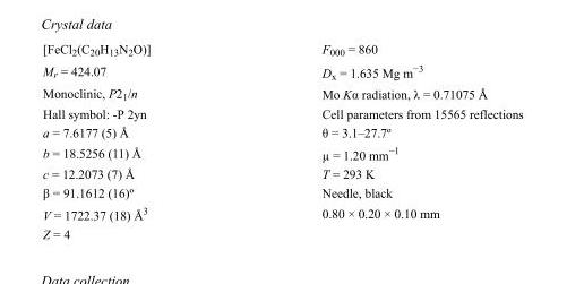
<table><tbody><tr><td>[FeCl<sub>2</sub>(C<sub>20</sub>H<sub>13</sub>N<sub>2</sub>O)]</td><td>F000 = 860</td></tr><tr><td>M<sub>r</sub> = 424.07</td><td>D<sub>x</sub> = 1.635 Mg m<sup>−3</sup></td></tr><tr><td>Monoclinic, P2<sub>1</sub>/n</td><td>Mo Kα radiation, λ = 0.71075 Å</td></tr><tr><td>Hall symbol: -P 2yn</td><td>Cell parameters from 15565 reflections</td></tr><tr><td>a = 7.6177 (5) Å</td><td>θ = 3.1–27.7º</td></tr><tr><td>b = 18.5256 (11) Å</td><td>µ = 1.20 mm<sup>−1</sup></td></tr><tr><td>c = 12.2073 (7) Å</td><td>T = 293 K</td></tr><tr><td>β = 91.1612 (16)º</td><td>Needle, black</td></tr><tr><td>V = 1722.37 (18) Å<sup>3</sup></td><td>0.80 × 0.20 × 0.10 mm</td></tr><tr><td>Z = 4</td><td></td></tr></tbody></table>